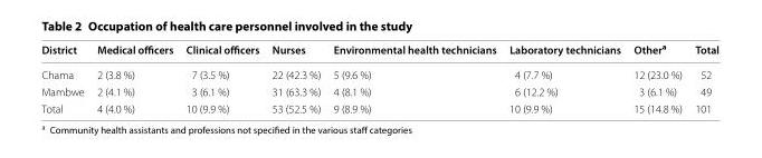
<table><thead><tr><td>District</td><td>Medical officers</td><td>Clinical officers</td><td>Nurses</td><td>Environmental health technicians</td><td>Laboratory technicians</td><td>Other<sup>a</sup></td><td>Total</td></tr></thead><tbody><tr><td>Chama</td><td>2 (3.8 %)</td><td>7 (3.5 %)</td><td>22 (42.3 %)</td><td>5 (9.6 %)</td><td>4 (7.7 %)</td><td>12 (23.0 %)</td><td>52</td></tr><tr><td>Mambwe</td><td>2 (4.1 %)</td><td>3 (6.1 %)</td><td>31 (63.3 %)</td><td>4 (8.1 %)</td><td>6 (12.2 %)</td><td>3 (6.1 %)</td><td>49</td></tr><tr><td>Total</td><td>4 (4.0 %)</td><td>10 (9.9 %)</td><td>53 (52.5 %)</td><td>9 (8.9 %)</td><td>10 (9.9 %)</td><td>15 (14.8 %)</td><td>101</td></tr></tbody></table>